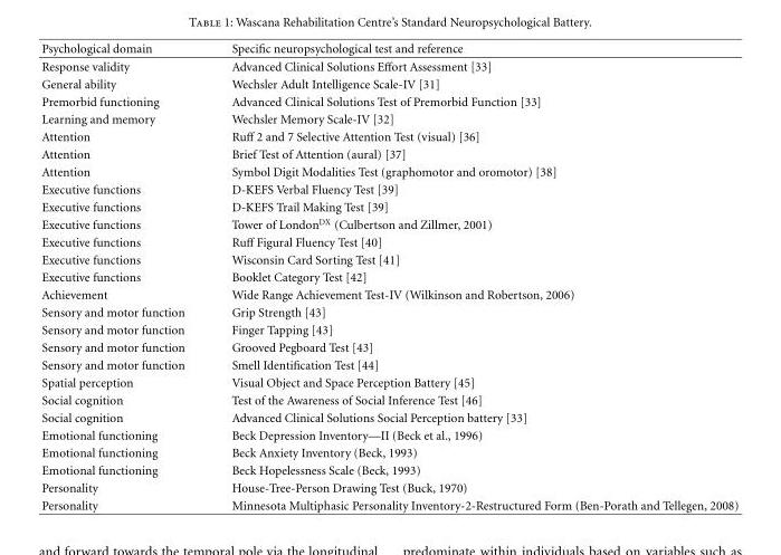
<table><thead><tr><td>Psychological domain</td><td>Specific neuropsychological test and reference</td></tr></thead><tbody><tr><td>Response validity</td><td>Advanced Clinical Solutions Effort Assessment [33]</td></tr><tr><td>General ability</td><td>Wechsler Adult Intelligence Scale-IV [31]</td></tr><tr><td>Premorbid functioning</td><td>Advanced Clinical Solutions Test of Premorbid Function [33]</td></tr><tr><td>Learning and memory</td><td>Wechsler Memory Scale-IV [32]</td></tr><tr><td>Attention</td><td>Ruff 2 and 7 Selective Attention Test (visual) [36]</td></tr><tr><td>Attention</td><td>Brief Test of Attention (aural) [37]</td></tr><tr><td>Attention</td><td>Symbol Digit Modalities Test (graphomotor and oromotor) [38]</td></tr><tr><td>Executive functions</td><td>D-KEFS Verbal Fluency Test [39]</td></tr><tr><td>Executive functions</td><td>D-KEFS Trail Making Test [39]</td></tr><tr><td>Executive functions</td><td>Tower of London<sup>DX</sup> (Culbertson and Zillmer, 2001)</td></tr><tr><td>Executive functions</td><td>Ruff Figural Fluency Test [40]</td></tr><tr><td>Executive functions</td><td>Wisconsin Card Sorting Test [41]</td></tr><tr><td>Executive functions</td><td>Booklet Category Test [42]</td></tr><tr><td>Achievement</td><td>Wide Range Achievement Test-IV (Wilkinson and Robertson, 2006)</td></tr><tr><td>Sensory and motor function</td><td>Grip Strength [43]</td></tr><tr><td>Sensory and motor function</td><td>Finger Tapping [43]</td></tr><tr><td>Sensory and motor function</td><td>Grooved Pegboard Test [43]</td></tr><tr><td>Sensory and motor function</td><td>Smell Identification Test [44]</td></tr><tr><td>Spatial perception</td><td>Visual Object and Space Perception Battery [45]</td></tr><tr><td>Social cognition</td><td>Test of the Awareness of Social Inference Test [46]</td></tr><tr><td>Social cognition</td><td>Advanced Clinical Solutions Social Perception battery [33]</td></tr><tr><td>Emotional functioning</td><td>Beck Depression Inventory—II (Beck et al., 1996)</td></tr><tr><td>Emotional functioning</td><td>Beck Anxiety Inventory (Beck, 1993)</td></tr><tr><td>Emotional functioning</td><td>Beck Hopelessness Scale (Beck, 1993)</td></tr><tr><td>Personality</td><td>House-Tree-Person Drawing Test (Buck, 1970)</td></tr><tr><td>Personality</td><td>Minnesota Multiphasic Personality Inventory-2-Restructured Form (Ben-Porath and Tellegen, 2008)</td></tr></tbody></table>